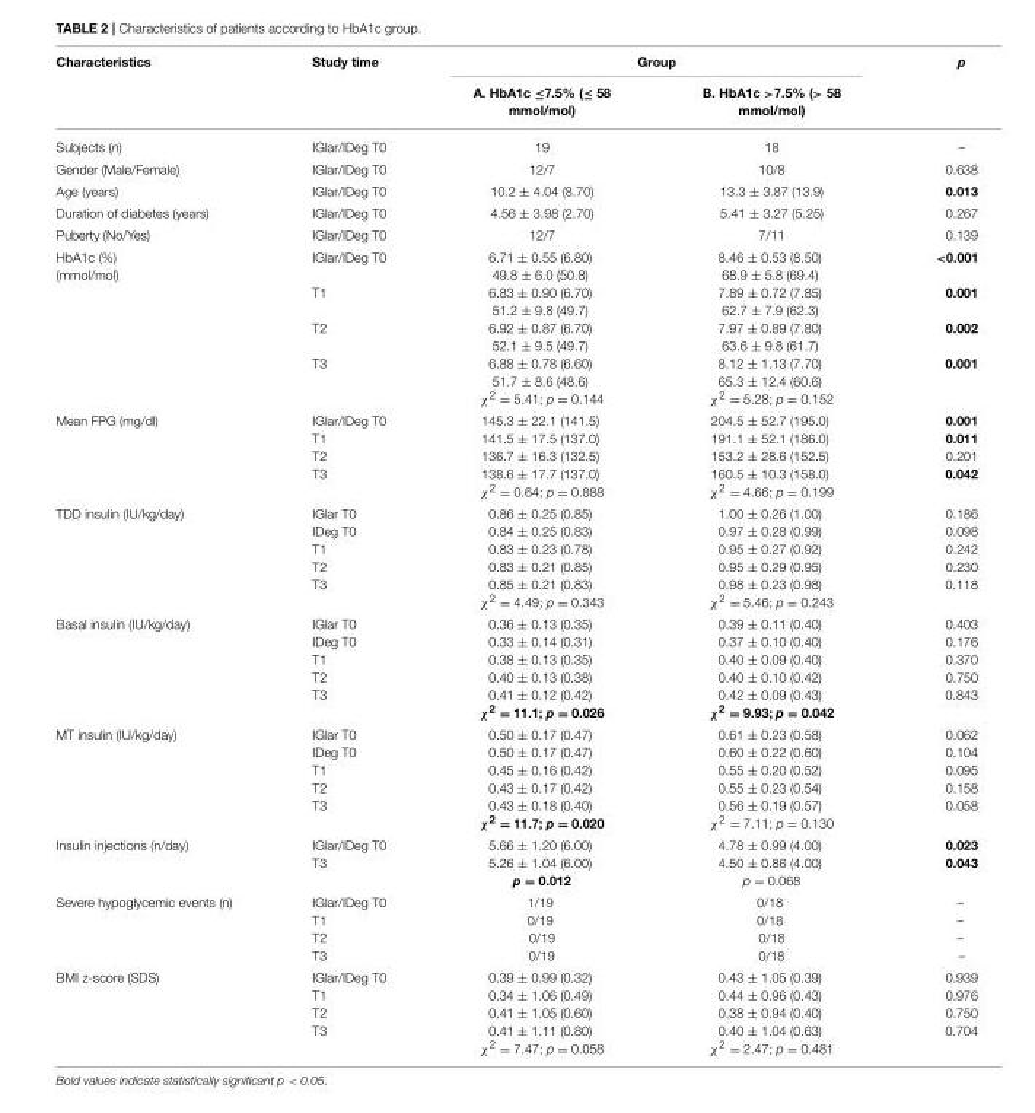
<table><thead><tr><td rowspan="2">Characteristics</td><td rowspan="2">Study time</td><td colspan="2">Group</td><td rowspan="2">p</td></tr><tr><td>A. HbA1c ≤7.5% (≤ 58 mmol/mol)</td><td>B. HbA1c &gt;7.5% (&gt; 58 mmol/mol)</td></tr></thead><tbody><tr><td>Subjects (n)</td><td>IGlar/IDeg T0</td><td>19</td><td>18</td><td>–</td></tr><tr><td>Gender (Male/Female)</td><td>IGlar/IDeg T0</td><td>12/7</td><td>10/8</td><td>0.638</td></tr><tr><td>Age (years)</td><td>IGlar/IDeg T0</td><td>10.2 ± 4.04 (8.70)</td><td>13.3 ± 3.87 (13.9)</td><td>0.013</td></tr><tr><td>Duration of diabetes (years)</td><td>IGlar/IDeg T0</td><td>4.56 ± 3.98 (2.70)</td><td>5.41 ± 3.27 (5.25)</td><td>0.267</td></tr><tr><td>Puberty (No/Yes)</td><td>IGlar/IDeg T0</td><td>12/7</td><td>7/11</td><td>0.139</td></tr><tr><td>HbA1c (%) (mmol/mol)</td><td>IGlar/IDeg T0 T1 T2 T3</td><td>6.71 ± 0.55 (6.80) 49.8 ± 6.0 (50.8) 6.83 ± 0.90 (6.70) 51.2 ± 9.8 (49.7) 6.92 ± 0.87 (6.70) 52.1 ± 9.5 (49.7) 6.88 ± 0.78 (6.60) 51.7 ± 8.6 (48.6) χ<sup>2</sup> = 5.41; p = 0.144</td><td>8.46 ± 0.53 (8.50) 68.9 ± 5.8 (69.4) 7.89 ± 0.72 (7.85) 62.7 ± 7.9 (62.3) 7.97 ± 0.89 (7.80) 63.6 ± 9.8 (61.7) 8.12 ± 1.13 (7.70) 65.3 ± 12.4 (60.6) χ<sup>2</sup> = 5.28; p = 0.152</td><td>&lt;0.001 0.001 0.002 0.001</td></tr><tr><td>Mean FPG (mg/dl)</td><td>IGlar/IDeg T0 T1 T2 T3</td><td>145.3 ± 22.1 (141.5) 141.5 ± 17.5 (137.0) 136.7 ± 16.3 (132.5) 138.6 ± 17.7 (137.0) χ<sup>2</sup> = 0.64; p = 0.888</td><td>204.5 ± 52.7 (195.0) 191.1 ± 52.1 (186.0) 153.2 ± 28.6 (152.5) 160.5 ± 10.3 (158.0) χ<sup>2</sup> = 4.66; p = 0.199</td><td>0.001 0.011 0.201 0.042</td></tr><tr><td>TDD insulin (IU/kg/day)</td><td>IGlar T0 IDeg T0 T1 T2 T3</td><td>0.86 ± 0.25 (0.85) 0.84 ± 0.25 (0.83) 0.83 ± 0.23 (0.78) 0.83 ± 0.21 (0.85) 0.85 ± 0.21 (0.83) χ<sup>2</sup> = 4.49; p = 0.343</td><td>1.00 ± 0.26 (1.00) 0.97 ± 0.28 (0.99) 0.95 ± 0.27 (0.92) 0.95 ± 0.29 (0.95) 0.98 ± 0.23 (0.98) χ<sup>2</sup> = 5.46; p = 0.243</td><td>0.186 0.098 0.242 0.230 0.118</td></tr><tr><td>Basal insulin (IU/kg/day)</td><td>IGlar T0 IDeg T0 T1 T2 T3</td><td>0.36 ± 0.13 (0.35) 0.33 ± 0.14 (0.31) 0.38 ± 0.13 (0.35) 0.40 ± 0.13 (0.38) 0.41 ± 0.12 (0.42) χ<sup>2</sup> = 11.1; p = 0.026</td><td>0.39 ± 0.11 (0.40) 0.37 ± 0.10 (0.40) 0.40 ± 0.09 (0.40) 0.40 ± 0.10 (0.42) 0.42 ± 0.09 (0.43) χ<sup>2</sup> = 9.93; p = 0.042</td><td>0.403 0.176 0.370 0.750 0.843</td></tr><tr><td>MT insulin (IU/kg/day)</td><td>IGlar T0 IDeg T0 T1 T2 T3</td><td>0.50 ± 0.17 (0.47) 0.50 ± 0.17 (0.47) 0.45 ± 0.16 (0.42) 0.43 ± 0.17 (0.42) 0.43 ± 0.18 (0.40) χ<sup>2</sup> = 11.7; p = 0.020</td><td>0.61 ± 0.23 (0.58) 0.60 ± 0.22 (0.60) 0.55 ± 0.20 (0.52) 0.55 ± 0.23 (0.54) 0.56 ± 0.19 (0.57) χ<sup>2</sup> = 7.11; p = 0.130</td><td>0.062 0.104 0.095 0.158 0.058</td></tr><tr><td>Insulin injections (n/day)</td><td>IGlar/IDeg T0 T3</td><td>5.66 ± 1.20 (6.00) 5.26 ± 1.04 (6.00) p = 0.012</td><td>4.78 ± 0.99 (4.00) 4.50 ± 0.86 (4.00) p = 0.068</td><td>0.023 0.043</td></tr><tr><td>Severe hypoglycemic events (n)</td><td>IGlar/IDeg T0 T1 T2 T3</td><td>1/19 0/19 0/19 0/19</td><td>0/18 0/18 0/18 0/18</td><td>– – – –</td></tr><tr><td>BMI z-score (SDS)</td><td>IGlar/IDeg T0 T1 T2 T3</td><td>0.39 ± 0.99 (0.32) 0.34 ± 1.06 (0.49) 0.41 ± 1.05 (0.60) 0.41 ± 1.11 (0.80) χ<sup>2</sup> = 7.47; p = 0.058</td><td>0.43 ± 1.05 (0.39) 0.44 ± 0.96 (0.43) 0.38 ± 0.94 (0.40) 0.40 ± 1.04 (0.63) χ<sup>2</sup> = 2.47; p = 0.481</td><td>0.939 0.976 0.750 0.704</td></tr></tbody></table>